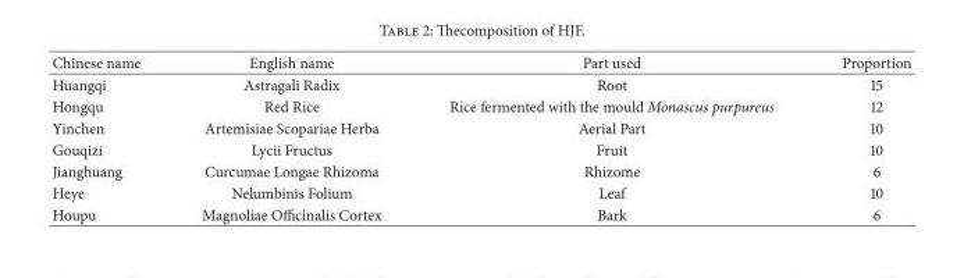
<table><thead><tr><td>Chinese name</td><td>English name</td><td>Part used</td><td>Proportion</td></tr></thead><tbody><tr><td>Huangqi</td><td>Astragali Radix</td><td>Root</td><td>15</td></tr><tr><td>Hongqu</td><td>Red Rice</td><td>Rice fermented with the mould Monascus purpureus</td><td>12</td></tr><tr><td>Yinchen</td><td>Artemisiae Scopariae Herba</td><td>Aerial Part</td><td>10</td></tr><tr><td>Gouqizi</td><td>Lycii Fructus</td><td>Fruit</td><td>10</td></tr><tr><td>Jianghuang</td><td>Curcumae Longae Rhizoma</td><td>Rhizome</td><td>6</td></tr><tr><td>Heye</td><td>Nelumbinis Folium</td><td>Leaf</td><td>10</td></tr><tr><td>Houpu</td><td>Magnoliae Officinalis Cortex</td><td>Bark</td><td>6</td></tr></tbody></table>